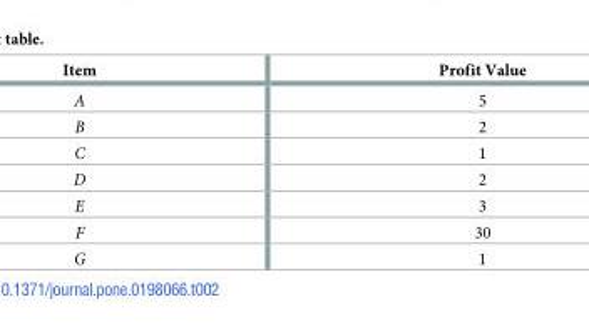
<table><thead><tr><td>Item</td><td>Profit Value</td></tr></thead><tbody><tr><td>A</td><td>5</td></tr><tr><td>B</td><td>2</td></tr><tr><td>C</td><td>1</td></tr><tr><td>D</td><td>2</td></tr><tr><td>E</td><td>3</td></tr><tr><td>F</td><td>30</td></tr><tr><td>G</td><td>1</td></tr></tbody></table>